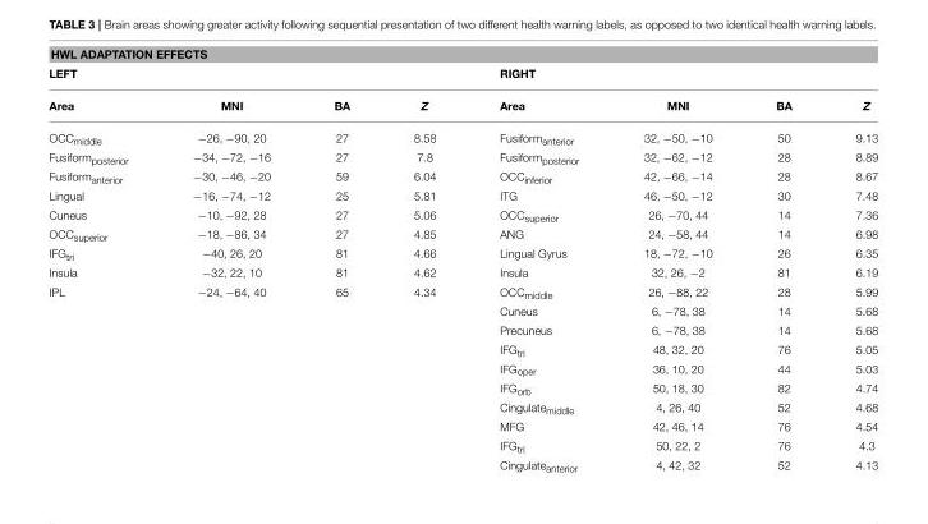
<table><thead><tr><td colspan="8">HWL ADAPTATION EFFECTS</td></tr><tr><td>LEFT</td><td></td><td></td><td></td><td>RIGHT</td><td></td><td></td><td></td></tr></thead><tbody><tr><td>Area</td><td>MNI</td><td>BA</td><td>Z</td><td>Area</td><td>MNI</td><td>BA</td><td>Z</td></tr><tr><td>OCC<sub>middle</sub></td><td>−26, −90, 20</td><td>27</td><td>8.58</td><td>Fusiform<sub>anterior</sub></td><td>32, −50, −10</td><td>50</td><td>9.13</td></tr><tr><td>Fusiform<sub>posterior</sub></td><td>−34, −72, −16</td><td>27</td><td>7.8</td><td>Fusiform<sub>posterior</sub></td><td>32, −62, −12</td><td>28</td><td>8.89</td></tr><tr><td>Fusiform<sub>anterior</sub></td><td>−30, −46, −20</td><td>59</td><td>6.04</td><td>OCC<sub>inferior</sub></td><td>42, −66, −14</td><td>28</td><td>8.67</td></tr><tr><td>Lingual</td><td>−16, −74, −12</td><td>25</td><td>5.81</td><td>ITG</td><td>46, −50, −12</td><td>30</td><td>7.48</td></tr><tr><td>Cuneus</td><td>−10, −92, 28</td><td>27</td><td>5.06</td><td>OCC<sub>superior</sub></td><td>26, −70, 44</td><td>14</td><td>7.36</td></tr><tr><td>OCC<sub>superior</sub></td><td>−18, −86, 34</td><td>27</td><td>4.85</td><td>ANG</td><td>24, −58, 44</td><td>14</td><td>6.98</td></tr><tr><td>IFG<sub>tri</sub></td><td>−40, 26, 20</td><td>81</td><td>4.66</td><td>Lingual Gyrus</td><td>18, −72, −10</td><td>26</td><td>6.35</td></tr><tr><td>Insula</td><td>−32, 22, 10</td><td>81</td><td>4.62</td><td>Insula</td><td>32, 26, −2</td><td>81</td><td>6.19</td></tr><tr><td rowspan="10">IPL</td><td>−24, −64, 40</td><td>65</td><td>4.34</td><td>OCC<sub>middle</sub></td><td>26, −88, 22</td><td>28</td><td>5.99</td></tr><tr><td></td><td></td><td></td><td>Cuneus</td><td>6, −78, 38</td><td>14</td><td>5.68</td></tr><tr><td></td><td></td><td></td><td>Precuneus</td><td>6, −78, 38</td><td>14</td><td>5.68</td></tr><tr><td></td><td></td><td></td><td>IFG<sub>tri</sub></td><td>48, 32, 20</td><td>76</td><td>5.05</td></tr><tr><td></td><td></td><td></td><td>IFG<sub>oper</sub></td><td>36, 10, 20</td><td>44</td><td>5.03</td></tr><tr><td></td><td></td><td></td><td>IFG<sub>orb</sub></td><td>50, 18, 30</td><td>82</td><td>4.74</td></tr><tr><td></td><td></td><td></td><td>Cingulate<sub>middle</sub></td><td>4, 26, 40</td><td>52</td><td>4.68</td></tr><tr><td></td><td></td><td></td><td>MFG</td><td>42, 46, 14</td><td>76</td><td>4.54</td></tr><tr><td></td><td></td><td></td><td>IFG<sub>tri</sub></td><td>50, 22, 2</td><td>76</td><td>4.3</td></tr><tr><td></td><td></td><td></td><td>Cingulate<sub>anterior</sub></td><td>4, 42, 32</td><td>52</td><td>4.13</td></tr></tbody></table>